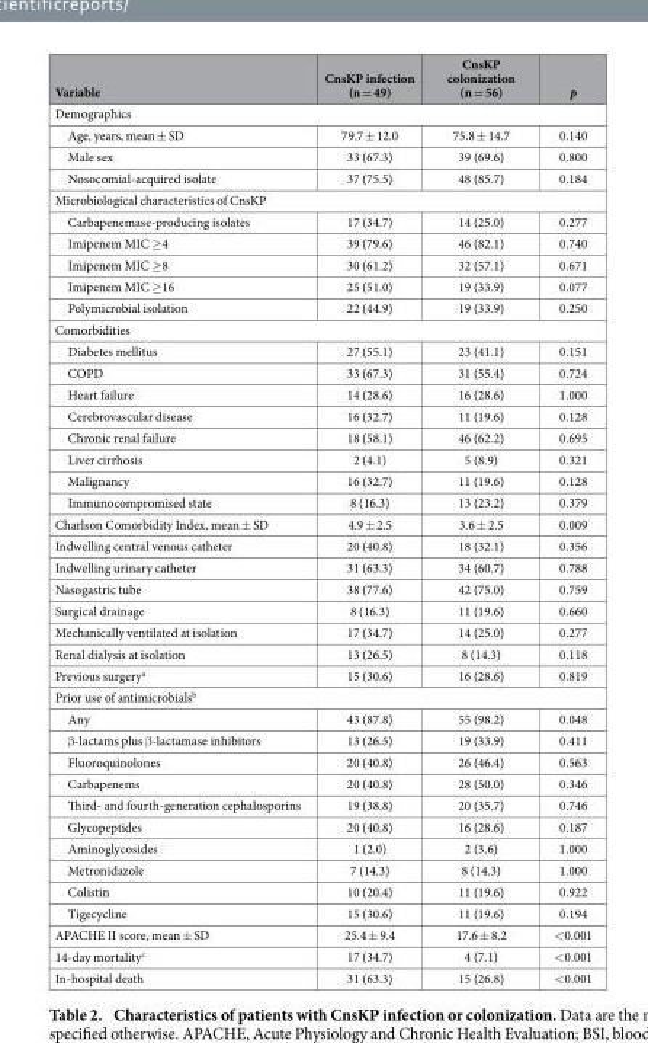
<table><thead><tr><td>Variable</td><td>CnsKP infection (n = 49)</td><td>CnsKP colonization (n = 56)</td><td>p</td></tr></thead><tbody><tr><td colspan="4">Demographics</td></tr><tr><td>Age, years, mean ± SD</td><td>79.7 ± 12.0</td><td>75.8 ± 14.7</td><td>0.140</td></tr><tr><td>Male sex</td><td>33 (67.3)</td><td>39 (69.6)</td><td>0.800</td></tr><tr><td>Nosocomial-acquired isolate</td><td>37 (75.5)</td><td>48 (85.7)</td><td>0.184</td></tr><tr><td colspan="4">Microbiological characteristics of CnsKP</td></tr><tr><td>Carbapenemase-producing isolates</td><td>17 (34.7)</td><td>14 (25.0)</td><td>0.277</td></tr><tr><td>Imipenem MIC ≥ 4</td><td>39 (79.6)</td><td>46 (82.1)</td><td>0.740</td></tr><tr><td>Imipenem MIC ≥ 8</td><td>30 (61.2)</td><td>32 (57.1)</td><td>0.671</td></tr><tr><td>Imipenem MIC ≥ 16</td><td>25 (51.0)</td><td>19 (33.9)</td><td>0.077</td></tr><tr><td>Polymicrobial isolation</td><td>22 (44.9)</td><td>19 (33.9)</td><td>0.250</td></tr><tr><td colspan="4">Comorbidities</td></tr><tr><td>Diabetes mellitus</td><td>27 (55.1)</td><td>23 (41.1)</td><td>0.151</td></tr><tr><td>COPD</td><td>33 (67.3)</td><td>31 (55.4)</td><td>0.724</td></tr><tr><td>Heart failure</td><td>14 (28.6)</td><td>16 (28.6)</td><td>1.000</td></tr><tr><td>Cerebrovascular disease</td><td>16 (32.7)</td><td>11 (19.6)</td><td>0.128</td></tr><tr><td>Chronic renal failure</td><td>18 (58.1)</td><td>46 (62.2)</td><td>0.695</td></tr><tr><td>Liver cirrhosis</td><td>2 (4.1)</td><td>5 (8.9)</td><td>0.321</td></tr><tr><td>Malignancy</td><td>16 (32.7)</td><td>11 (19.6)</td><td>0.128</td></tr><tr><td>Immunocompromised state</td><td>8 (16.3)</td><td>13 (23.2)</td><td>0.379</td></tr><tr><td>Charlson Comorbidity Index, mean ± SD</td><td>4.9 ± 2.5</td><td>3.6 ± 2.5</td><td>0.009</td></tr><tr><td>Indwelling central venous catheter</td><td>20 (40.8)</td><td>18 (32.1)</td><td>0.356</td></tr><tr><td>Indwelling urinary catheter</td><td>31 (63.3)</td><td>34 (60.7)</td><td>0.788</td></tr><tr><td>Nasogastric tube</td><td>38 (77.6)</td><td>42 (75.0)</td><td>0.759</td></tr><tr><td>Surgical drainage</td><td>8 (16.3)</td><td>11 (19.6)</td><td>0.660</td></tr><tr><td>Mechanically ventilated at isolation</td><td>17 (34.7)</td><td>14 (25.0)</td><td>0.277</td></tr><tr><td>Renal dialysis at isolation</td><td>13 (26.5)</td><td>8 (14.3)</td><td>0.118</td></tr><tr><td>Previous surgery<sup>a</sup></td><td>15 (30.6)</td><td>16 (28.6)</td><td>0.819</td></tr><tr><td colspan="4">Prior use of antimicrobials<sup>b</sup></td></tr><tr><td>Any</td><td>43 (87.8)</td><td>55 (98.2)</td><td>0.048</td></tr><tr><td>β -lactams plus β -lactamase inhibitors</td><td>13 (26.5)</td><td>19 (33.9)</td><td>0.411</td></tr><tr><td>Fluoroquinolones</td><td>20 (40.8)</td><td>26 (46.4)</td><td>0.563</td></tr><tr><td>Carbapenems</td><td>20 (40.8)</td><td>28 (50.0)</td><td>0.346</td></tr><tr><td>Third- and fourth-generation cephalosporins</td><td>19 (38.8)</td><td>20 (35.7)</td><td>0.746</td></tr><tr><td>Glycopeptides</td><td>20 (40.8)</td><td>16 (28.6)</td><td>0.187</td></tr><tr><td>Aminoglycosides</td><td>1 (2.0)</td><td>2 (3.6)</td><td>1.000</td></tr><tr><td>Metronidazole</td><td>7 (14.3)</td><td>8 (14.3)</td><td>1.000</td></tr><tr><td>Colistin</td><td>10 (20.4)</td><td>11 (19.6)</td><td>0.922</td></tr><tr><td>Tigecycline</td><td>15 (30.6)</td><td>11 (19.6)</td><td>0.194</td></tr><tr><td>APACHE II score, mean ± SD</td><td>25.4 ± 9.4</td><td>17.6 ± 8.2</td><td>&lt; 0.001</td></tr><tr><td>14-day mortality<sup>c</sup></td><td>17 (34.7)</td><td>4 (7.1)</td><td>&lt; 0.001</td></tr><tr><td>In-hospital death</td><td>31 (63.3)</td><td>15 (26.8)</td><td>&lt; 0.001</td></tr></tbody></table>